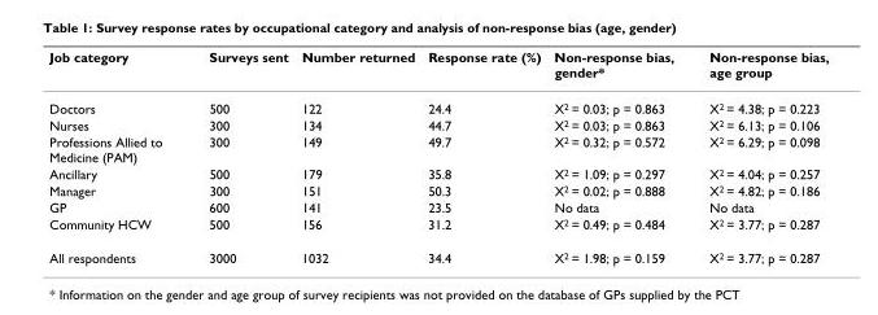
<table><thead><tr><td>Job category</td><td>Surveys sent</td><td>Number returned</td><td>Response rate (%)</td><td>Non-response bias, gender*</td><td>Non-response bias, age group</td></tr></thead><tbody><tr><td>Doctors</td><td>500</td><td>122</td><td>24.4</td><td>X<sup>2</sup> = 0.03; p = 0.863</td><td>X<sup>2</sup> = 4.38; p = 0.223</td></tr><tr><td>Nurses</td><td>300</td><td>134</td><td>44.7</td><td>X<sup>2</sup> = 0.03; p = 0.863</td><td>X<sup>2</sup> = 6.13; p = 0.106</td></tr><tr><td>Professions Allied to Medicine (PAM)</td><td>300</td><td>149</td><td>49.7</td><td>X<sup>2</sup> = 0.32; p = 0.572</td><td>X<sup>2</sup> = 6.29; p = 0.098</td></tr><tr><td>Ancillary</td><td>500</td><td>179</td><td>35.8</td><td>X<sup>2</sup> = 1.09; p = 0.297</td><td>X<sup>2</sup> = 4.04; p = 0.257</td></tr><tr><td>Manager</td><td>300</td><td>151</td><td>50.3</td><td>X<sup>2</sup> = 0.02; p = 0.888</td><td>X<sup>2</sup> = 4.82; p = 0.186</td></tr><tr><td>GP</td><td>600</td><td>141</td><td>23.5</td><td>No data</td><td>No data</td></tr><tr><td>Community HCW</td><td>500</td><td>156</td><td>31.2</td><td>X<sup>2</sup> = 0.49; p = 0.484</td><td>X<sup>2</sup> = 3.77; p = 0.287</td></tr><tr><td>All respondents</td><td>3000</td><td>1032</td><td>34.4</td><td>X<sup>2</sup> = 1.98; p = 0.159</td><td>X<sup>2</sup> = 3.77; p = 0.287</td></tr></tbody></table>